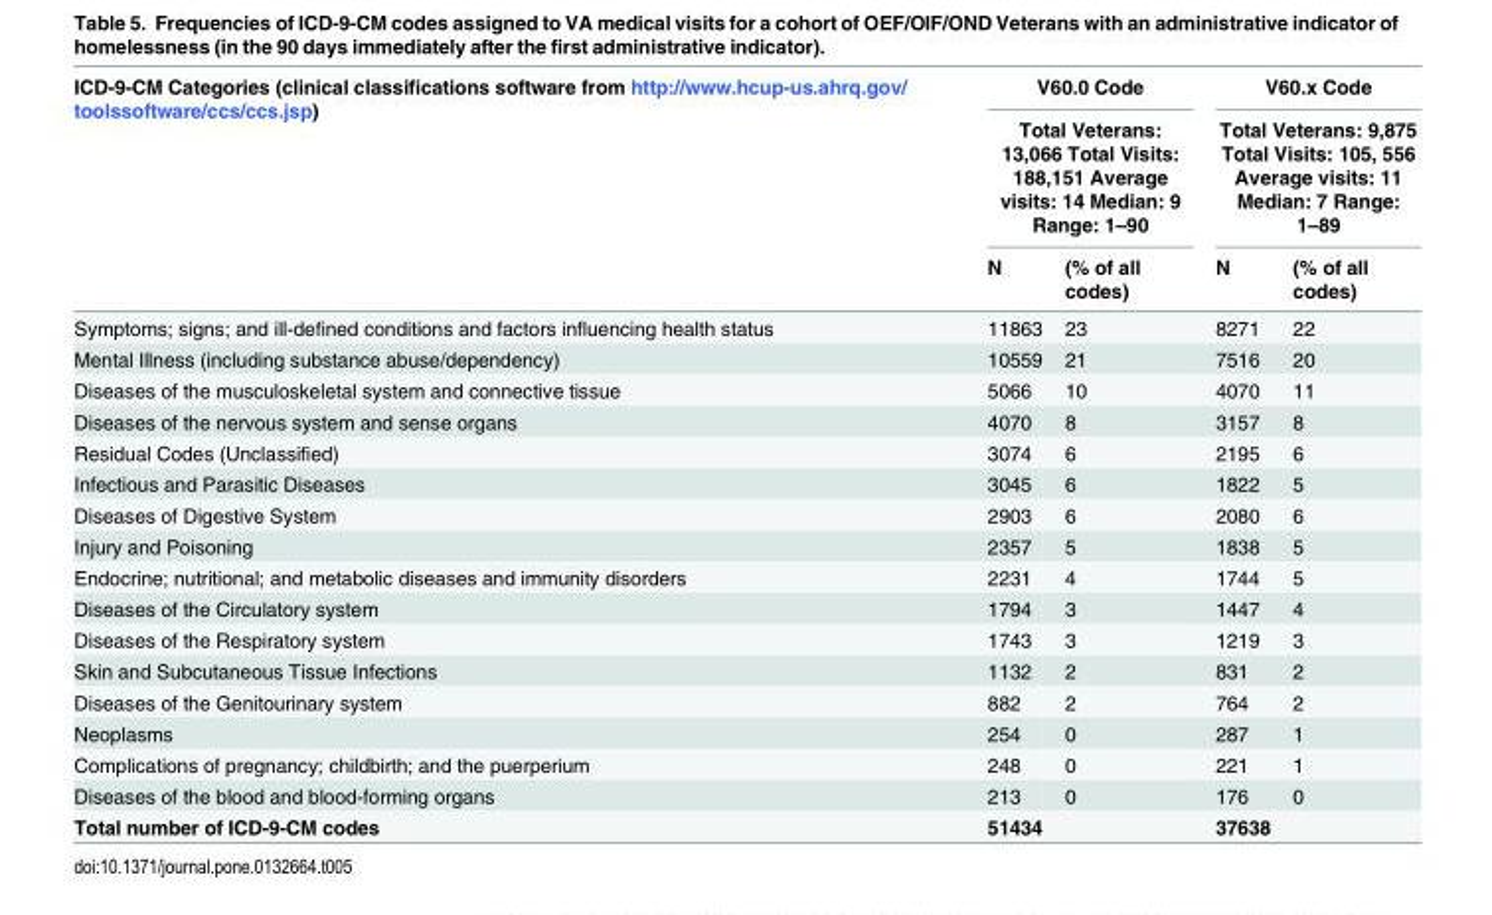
<table><thead><tr><td rowspan="3">ICD-9-CM Categories (clinical classifications software from http://www.hcup-us.ahrq.gov/ toolssoftware/ccs/ccs.jsp)</td><td rowspan="2" colspan="2">V60.0 Code Total Veterans: 13,066 Total Visits: 188,151 Average visits: 14 Median: 9 Range: 1–90</td><td rowspan="2" colspan="2">V60.x Code Total Veterans: 9,875 Total Visits: 105, 556 Average visits: 11 Median: 7 Range: 1–89</td></tr><tr></tr><tr><td>N</td><td>(% of all codes)</td><td>N</td><td>(% of all codes)</td></tr></thead><tbody><tr><td>Symptoms; signs; and ill-defined conditions and factors influencing health status</td><td>11863</td><td>23</td><td>8271</td><td>22</td></tr><tr><td>Mental Illness (including substance abuse/dependency)</td><td>10559</td><td>21</td><td>7516</td><td>20</td></tr><tr><td>Diseases of the musculoskeletal system and connective tissue</td><td>5066</td><td>10</td><td>4070</td><td>11</td></tr><tr><td>Diseases of the nervous system and sense organs</td><td>4070</td><td>8</td><td>3157</td><td>8</td></tr><tr><td>Residual Codes (Unclassified)</td><td>3074</td><td>6</td><td>2195</td><td>6</td></tr><tr><td>Infectious and Parasitic Diseases</td><td>3045</td><td>6</td><td>1822</td><td>5</td></tr><tr><td>Diseases of Digestive System</td><td>2903</td><td>6</td><td>2080</td><td>6</td></tr><tr><td>Injury and Poisoning</td><td>2357</td><td>5</td><td>1838</td><td>5</td></tr><tr><td>Endocrine; nutritional; and metabolic diseases and immunity disorders</td><td>2231</td><td>4</td><td>1744</td><td>5</td></tr><tr><td>Diseases of the Circulatory system</td><td>1794</td><td>3</td><td>1447</td><td>4</td></tr><tr><td>Diseases of the Respiratory system</td><td>1743</td><td>3</td><td>1219</td><td>3</td></tr><tr><td>Skin and Subcutaneous Tissue Infections</td><td>1132</td><td>2</td><td>831</td><td>2</td></tr><tr><td>Diseases of the Genitourinary system</td><td>882</td><td>2</td><td>764</td><td>2</td></tr><tr><td>Neoplasms</td><td>254</td><td>0</td><td>287</td><td>1</td></tr><tr><td>Complications of pregnancy; childbirth; and the puerperium</td><td>248</td><td>0</td><td>221</td><td>1</td></tr><tr><td>Diseases of the blood and blood-forming organs</td><td>213</td><td>0</td><td>176</td><td>0</td></tr><tr><td>Total number of ICD-9-CM codes</td><td>51434</td><td></td><td>37638</td><td></td></tr></tbody></table>